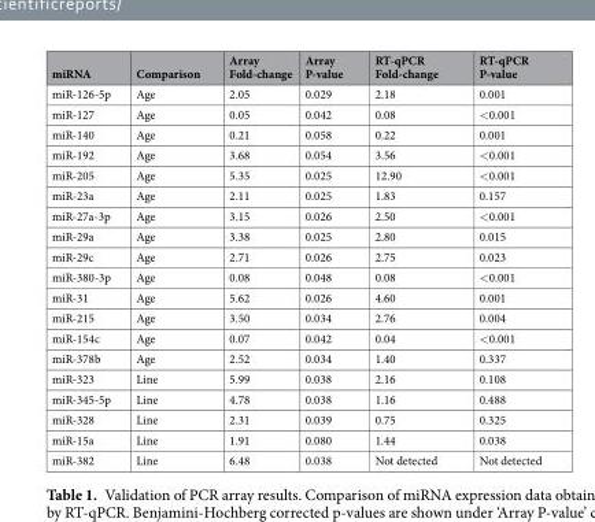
<table><thead><tr><td>miRNA</td><td>Comparison</td><td>Array Fold-change</td><td>Array P-value</td><td>RT-qPCR Fold-change</td><td>RT-qPCR P-value</td></tr></thead><tbody><tr><td>miR-126-5p</td><td>Age</td><td>2.05</td><td>0.029</td><td>2.18</td><td>0.001</td></tr><tr><td>miR-127</td><td>Age</td><td>0.05</td><td>0.042</td><td>0.08</td><td>&lt;0.001</td></tr><tr><td>miR-140</td><td>Age</td><td>0.21</td><td>0.058</td><td>0.22</td><td>0.001</td></tr><tr><td>miR-192</td><td>Age</td><td>3.68</td><td>0.054</td><td>3.56</td><td>&lt;0.001</td></tr><tr><td>miR-205</td><td>Age</td><td>5.35</td><td>0.025</td><td>12.90</td><td>&lt;0.001</td></tr><tr><td>miR-23a</td><td>Age</td><td>2.11</td><td>0.025</td><td>1.83</td><td>0.157</td></tr><tr><td>miR-27a-3p</td><td>Age</td><td>3.15</td><td>0.026</td><td>2.50</td><td>&lt;0.001</td></tr><tr><td>miR-29a</td><td>Age</td><td>3.38</td><td>0.025</td><td>2.80</td><td>0.015</td></tr><tr><td>miR-29c</td><td>Age</td><td>2.71</td><td>0.026</td><td>2.75</td><td>0.023</td></tr><tr><td>miR-380-3p</td><td>Age</td><td>0.08</td><td>0.048</td><td>0.08</td><td>&lt;0.001</td></tr><tr><td>miR-31</td><td>Age</td><td>5.62</td><td>0.026</td><td>4.60</td><td>0.001</td></tr><tr><td>miR-215</td><td>Age</td><td>3.50</td><td>0.034</td><td>2.76</td><td>0.004</td></tr><tr><td>miR-154c</td><td>Age</td><td>0.07</td><td>0.042</td><td>0.04</td><td>&lt;0.001</td></tr><tr><td>miR-378b</td><td>Age</td><td>2.52</td><td>0.034</td><td>1.40</td><td>0.337</td></tr><tr><td>miR-323</td><td>Line</td><td>5.99</td><td>0.038</td><td>2.16</td><td>0.108</td></tr><tr><td>miR-345-5p</td><td>Line</td><td>4.78</td><td>0.038</td><td>1.16</td><td>0.488</td></tr><tr><td>miR-328</td><td>Line</td><td>2.31</td><td>0.039</td><td>0.75</td><td>0.325</td></tr><tr><td>miR-15a</td><td>Line</td><td>1.91</td><td>0.080</td><td>1.44</td><td>0.038</td></tr><tr><td>miR-382</td><td>Line</td><td>6.48</td><td>0.038</td><td>Not detected</td><td>Not detected</td></tr></tbody></table>